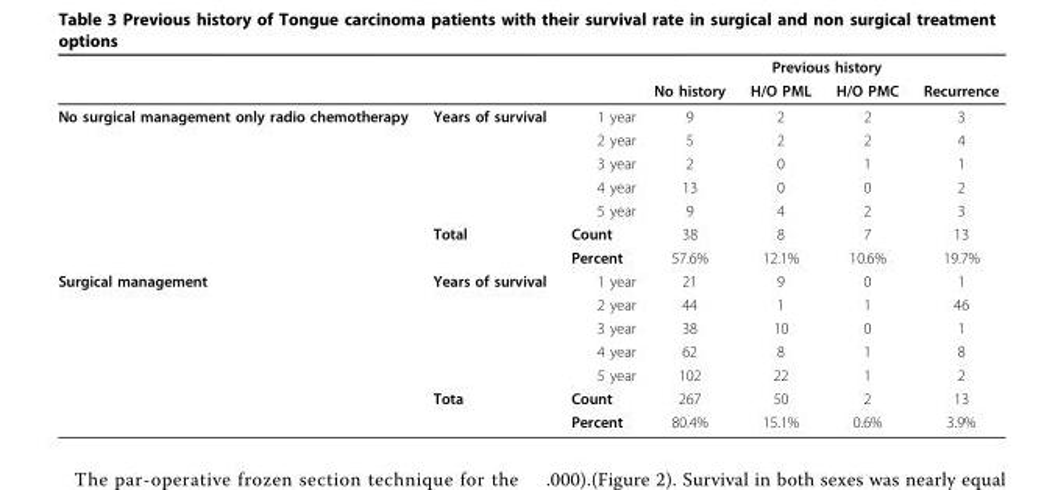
<table><thead><tr><td rowspan="2"></td><td rowspan="2"></td><td rowspan="2"></td><td colspan="4">Previous history</td></tr><tr><td>No history</td><td>H/O PML</td><td>H/O PMC</td><td>Recurrence</td></tr></thead><tbody><tr><td rowspan="7">No surgical management only radio chemotherapy</td><td>Years of survival</td><td>1 year</td><td>9</td><td>2</td><td>2</td><td>3</td></tr><tr><td></td><td>2 year</td><td>5</td><td>2</td><td>2</td><td>4</td></tr><tr><td></td><td>3 year</td><td>2</td><td>0</td><td>1</td><td>1</td></tr><tr><td></td><td>4 year</td><td>13</td><td>0</td><td>0</td><td>2</td></tr><tr><td></td><td>5 year</td><td>9</td><td>4</td><td>2</td><td>3</td></tr><tr><td>Total</td><td>Count</td><td>38</td><td>8</td><td>7</td><td>13</td></tr><tr><td></td><td>Percent</td><td>57.6%</td><td>12.1%</td><td>10.6%</td><td>19.7%</td></tr><tr><td rowspan="7">Surgical management</td><td>Years of survival</td><td>1 year</td><td>21</td><td>9</td><td>0</td><td>1</td></tr><tr><td></td><td>2 year</td><td>44</td><td>1</td><td>1</td><td>46</td></tr><tr><td></td><td>3 year</td><td>38</td><td>10</td><td>0</td><td>1</td></tr><tr><td></td><td>4 year</td><td>62</td><td>8</td><td>1</td><td>8</td></tr><tr><td></td><td>5 year</td><td>102</td><td>22</td><td>1</td><td>2</td></tr><tr><td>Tota</td><td>Count</td><td>267</td><td>50</td><td>2</td><td>13</td></tr><tr><td></td><td>Percent</td><td>80.4%</td><td>15.1%</td><td>0.6%</td><td>3.9%</td></tr></tbody></table>